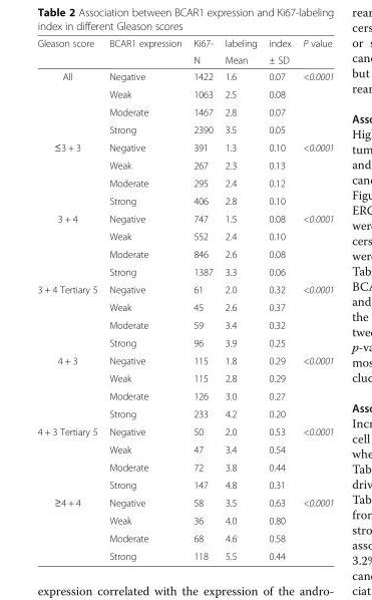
<table><thead><tr><td rowspan="2">Gleason score</td><td rowspan="2">BCAR1 expression</td><td rowspan="2">Ki67- N</td><td rowspan="2">labeling Mean</td><td rowspan="2">index ± SD</td><td rowspan="2">P value</td></tr><tr></tr></thead><tbody><tr><td rowspan="4">All</td><td>Negative</td><td>1422</td><td>1.6</td><td>0.07</td><td rowspan="4">&lt;0.0001</td></tr><tr><td>Weak</td><td>1063</td><td>2.5</td><td>0.08</td></tr><tr><td>Moderate</td><td>1467</td><td>2.8</td><td>0.07</td></tr><tr><td>Strong</td><td>2390</td><td>3.5</td><td>0.05</td></tr><tr><td rowspan="4">≤3 + 3</td><td>Negative</td><td>391</td><td>1.3</td><td>0.10</td><td rowspan="4">&lt;0.0001</td></tr><tr><td>Weak</td><td>267</td><td>2.3</td><td>0.13</td></tr><tr><td>Moderate</td><td>295</td><td>2.4</td><td>0.12</td></tr><tr><td>Strong</td><td>406</td><td>2.8</td><td>0.10</td></tr><tr><td rowspan="4">3 + 4</td><td>Negative</td><td>747</td><td>1.5</td><td>0.08</td><td rowspan="4">&lt;0.0001</td></tr><tr><td>Weak</td><td>552</td><td>2.4</td><td>0.10</td></tr><tr><td>Moderate</td><td>846</td><td>2.6</td><td>0.08</td></tr><tr><td>Strong</td><td>1387</td><td>3.3</td><td>0.06</td></tr><tr><td rowspan="4">3 + 4 Tertiary 5</td><td>Negative</td><td>61</td><td>2.0</td><td>0.32</td><td rowspan="4">&lt;0.0001</td></tr><tr><td>Weak</td><td>45</td><td>2.6</td><td>0.37</td></tr><tr><td>Moderate</td><td>59</td><td>3.4</td><td>0.32</td></tr><tr><td>Strong</td><td>96</td><td>3.9</td><td>0.25</td></tr><tr><td rowspan="4">4 + 3</td><td>Negative</td><td>115</td><td>1.8</td><td>0.29</td><td rowspan="4">&lt;0.0001</td></tr><tr><td>Weak</td><td>115</td><td>2.8</td><td>0.29</td></tr><tr><td>Moderate</td><td>126</td><td>3.0</td><td>0.27</td></tr><tr><td>Strong</td><td>233</td><td>4.2</td><td>0.20</td></tr><tr><td rowspan="4">4 + 3 Tertiary 5</td><td>Negative</td><td>50</td><td>2.0</td><td>0.53</td><td rowspan="4">&lt;0.0001</td></tr><tr><td>Weak</td><td>47</td><td>3.4</td><td>0.54</td></tr><tr><td>Moderate</td><td>72</td><td>3.8</td><td>0.44</td></tr><tr><td>Strong</td><td>147</td><td>4.8</td><td>0.31</td></tr><tr><td rowspan="4">≥4 + 4</td><td>Negative</td><td>58</td><td>3.5</td><td>0.63</td><td rowspan="4">&lt;0.0001</td></tr><tr><td>Weak</td><td>36</td><td>4.0</td><td>0.80</td></tr><tr><td>Moderate</td><td>68</td><td>4.6</td><td>0.58</td></tr><tr><td>Strong</td><td>118</td><td>5.5</td><td>0.44</td></tr></tbody></table>